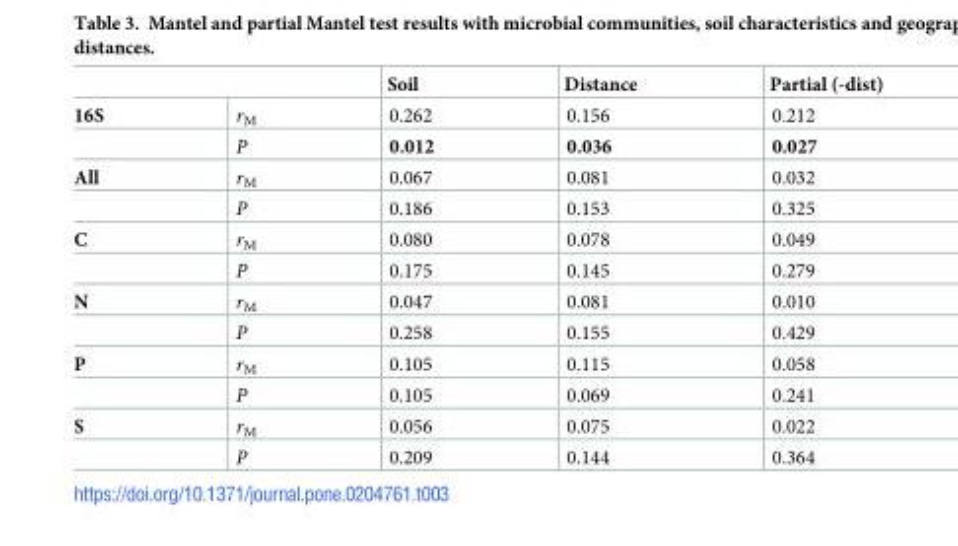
<table><thead><tr><td></td><td></td><td>Soil</td><td>Distance</td><td>Partial (-dist)</td></tr></thead><tbody><tr><td rowspan="2">16S</td><td>r<sub>M</sub></td><td>0.262</td><td>0.156</td><td>0.212</td></tr><tr><td>P</td><td>0.012</td><td>0.036</td><td>0.027</td></tr><tr><td rowspan="2">All</td><td>r<sub>M</sub></td><td>0.067</td><td>0.081</td><td>0.032</td></tr><tr><td>P</td><td>0.186</td><td>0.153</td><td>0.325</td></tr><tr><td rowspan="2">C</td><td>r<sub>M</sub></td><td>0.080</td><td>0.078</td><td>0.049</td></tr><tr><td>P</td><td>0.175</td><td>0.145</td><td>0.279</td></tr><tr><td rowspan="2">N</td><td>r<sub>M</sub></td><td>0.047</td><td>0.081</td><td>0.010</td></tr><tr><td>P</td><td>0.258</td><td>0.155</td><td>0.429</td></tr><tr><td rowspan="2">P</td><td>r<sub>M</sub></td><td>0.105</td><td>0.115</td><td>0.058</td></tr><tr><td>P</td><td>0.105</td><td>0.069</td><td>0.241</td></tr><tr><td rowspan="2">S</td><td>r<sub>M</sub></td><td>0.056</td><td>0.075</td><td>0.022</td></tr><tr><td>P</td><td>0.209</td><td>0.144</td><td>0.364</td></tr></tbody></table>